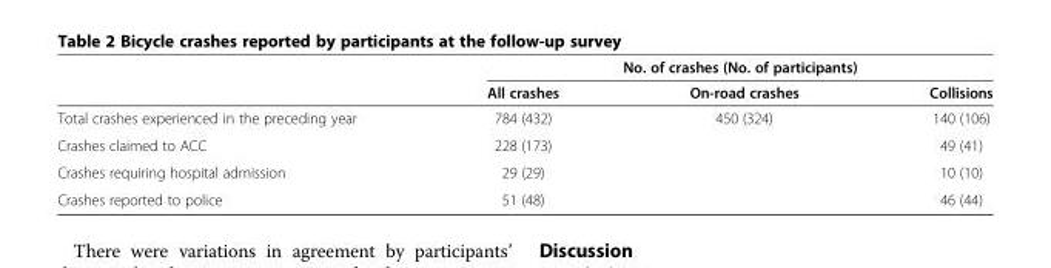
<table><thead><tr><td rowspan="2"></td><td colspan="3">No. of crashes (No. of participants)</td></tr><tr><td>All crashes</td><td>On-road crashes</td><td>Collisions</td></tr></thead><tbody><tr><td>Total crashes experienced in the preceding year</td><td>784 (432)</td><td>450 (324)</td><td>140 (106)</td></tr><tr><td>Crashes claimed to ACC</td><td>228 (173)</td><td></td><td>49 (41)</td></tr><tr><td>Crashes requiring hospital admission</td><td>29 (29)</td><td></td><td>10 (10)</td></tr><tr><td>Crashes reported to police</td><td>51 (48)</td><td></td><td>46 (44)</td></tr></tbody></table>